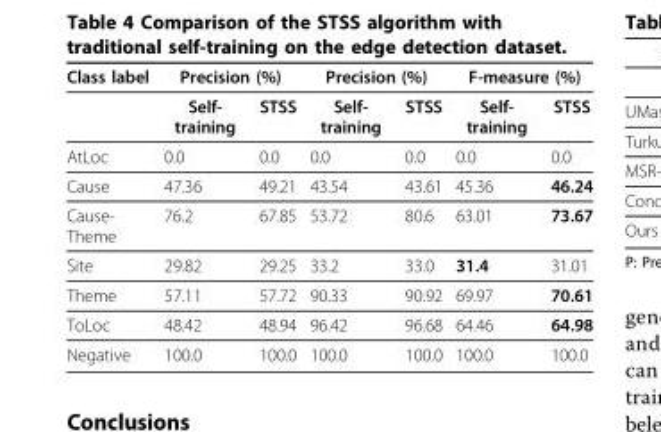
<table><thead><tr><td rowspan="2">Class label</td><td colspan="2">Precision (%)</td><td colspan="2">Precision (%)</td><td colspan="2">F-measure (%)</td></tr><tr><td>Self- training</td><td>STSS</td><td>Self- training</td><td>STSS</td><td>Self- training</td><td>STSS</td></tr></thead><tbody><tr><td>AtLoc</td><td>0.0</td><td>0.0</td><td>0.0</td><td>0.0</td><td>0.0</td><td>0.0</td></tr><tr><td>Cause</td><td>47.36</td><td>49.21</td><td>43.54</td><td>43.61</td><td>45.36</td><td>46.24</td></tr><tr><td>Cause- Theme</td><td>76.2</td><td>67.85</td><td>53.72</td><td>80.6</td><td>63.01</td><td>73.67</td></tr><tr><td>Site</td><td>29.82</td><td>29.25</td><td>33.2</td><td>33.0</td><td>31.4</td><td>31.01</td></tr><tr><td>Theme</td><td>57.11</td><td>57.72</td><td>90.33</td><td>90.92</td><td>69.97</td><td>70.61</td></tr><tr><td>ToLoc</td><td>48.42</td><td>48.94</td><td>96.42</td><td>96.68</td><td>64.46</td><td>64.98</td></tr><tr><td>Negative</td><td>100.0</td><td>100.0</td><td>100.0</td><td>100.0</td><td>100.0</td><td>100.0</td></tr></tbody></table>